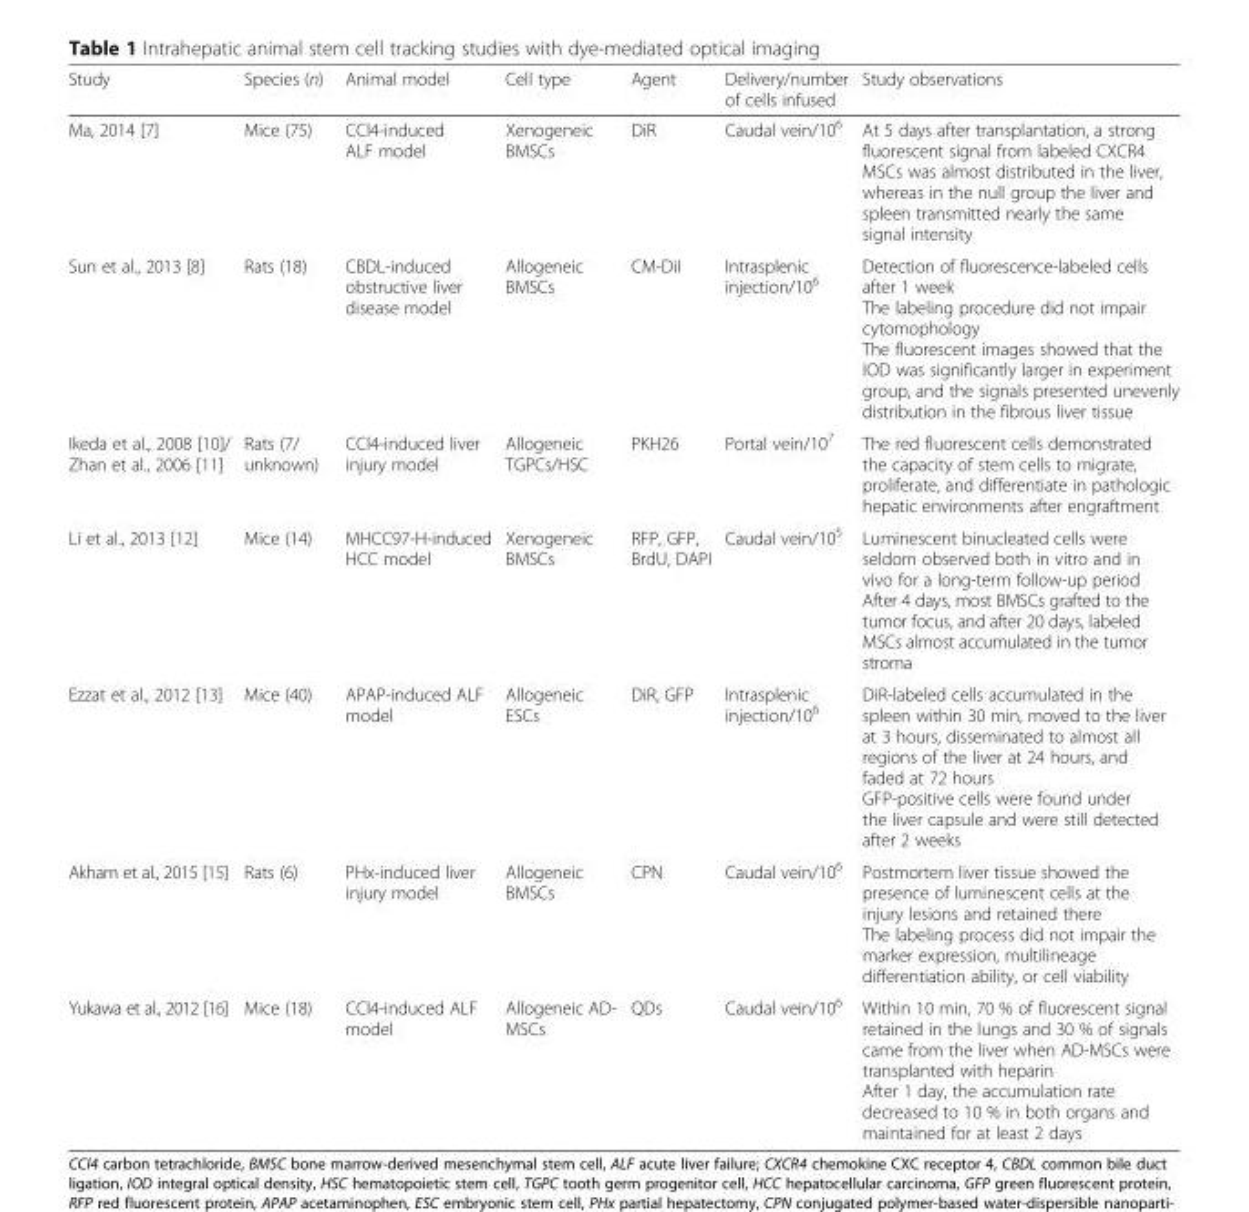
<table><thead><tr><td>Study</td><td>Species (n)</td><td>Animal model</td><td>Cell type</td><td>Agent</td><td>Delivery/number of cells infused</td><td>Study observations</td></tr></thead><tbody><tr><td>Ma, 2014 [7]</td><td>Mice (75)</td><td>CCl4-induced ALF model</td><td>Xenogeneic BMSCs</td><td>DiR</td><td>Caudal vein/10<sup>6</sup></td><td>At 5 days after transplantation, a strong fluorescent signal from labeled CXCR4 MSCs was almost distributed in the liver, whereas in the null group the liver and spleen transmitted nearly the same signal intensity</td></tr><tr><td>Sun et al., 2013 [8]</td><td>Rats (18)</td><td>CBDL-induced obstructive liver disease model</td><td>Allogeneic BMSCs</td><td>CM-DiI</td><td>Intrasplenic injection/10<sup>6</sup></td><td>Detection of fluorescence-labeled cells after 1 week The labeling procedure did not impair cytomophology The fluorescent images showed that the IOD was significantly larger in experiment group, and the signals presented unevenly distribution in the fibrous liver tissue</td></tr><tr><td>Ikeda et al., 2008 [10]/ Zhan et al., 2006 [11]</td><td>Rats (7/ unknown)</td><td>CCl4-induced liver injury model</td><td>Allogeneic TGPCs/HSC</td><td>PKH26</td><td>Portal vein/10<sup>7</sup></td><td>The red fluorescent cells demonstrated the capacity of stem cells to migrate, proliferate, and differentiate in pathologic hepatic environments after engraftment</td></tr><tr><td>Li et al., 2013 [12]</td><td>Mice (14)</td><td>MHCC97-H-induced HCC model</td><td>Xenogeneic BMSCs</td><td>RFP, GFP, BrdU, DAPI</td><td>Caudal vein/10<sup>5</sup></td><td>Luminescent binucleated cells were seldom observed both in vitro and in vivo for a long-term follow-up period After 4 days, most BMSCs grafted to the tumor focus, and after 20 days, labeled MSCs almost accumulated in the tumor stroma</td></tr><tr><td>Ezzat et al., 2012 [13]</td><td>Mice (40)</td><td>APAP-induced ALF model</td><td>Allogeneic ESCs</td><td>DiR, GFP</td><td>Intrasplenic injection/10<sup>6</sup></td><td>DiR-labeled cells accumulated in the spleen within 30 min, moved to the liver at 3 hours, disseminated to almost all regions of the liver at 24 hours, and faded at 72 hours GFP-positive cells were found under the liver capsule and were still detected after 2 weeks</td></tr><tr><td>Akham et al., 2015 [15]</td><td>Rats (6)</td><td>PHx-induced liver injury model</td><td>Allogeneic BMSCs</td><td>CPN</td><td>Caudal vein/10<sup>6</sup></td><td>Postmortem liver tissue showed the presence of luminescent cells at the injury lesions and retained there The labeling process did not impair the marker expression, multilineage differentiation ability, or cell viability</td></tr><tr><td>Yukawa et al., 2012 [16]</td><td>Mice (18)</td><td>CCl4-induced ALF model</td><td>Allogeneic AD- MSCs</td><td>QDs</td><td>Caudal vein/10<sup>6</sup></td><td>Within 10 min, 70 % of fluorescent signal retained in the lungs and 30 % of signals came from the liver when AD-MSCs were transplanted with heparin After 1 day, the accumulation rate decreased to 10 % in both organs and maintained for at least 2 days</td></tr></tbody></table>